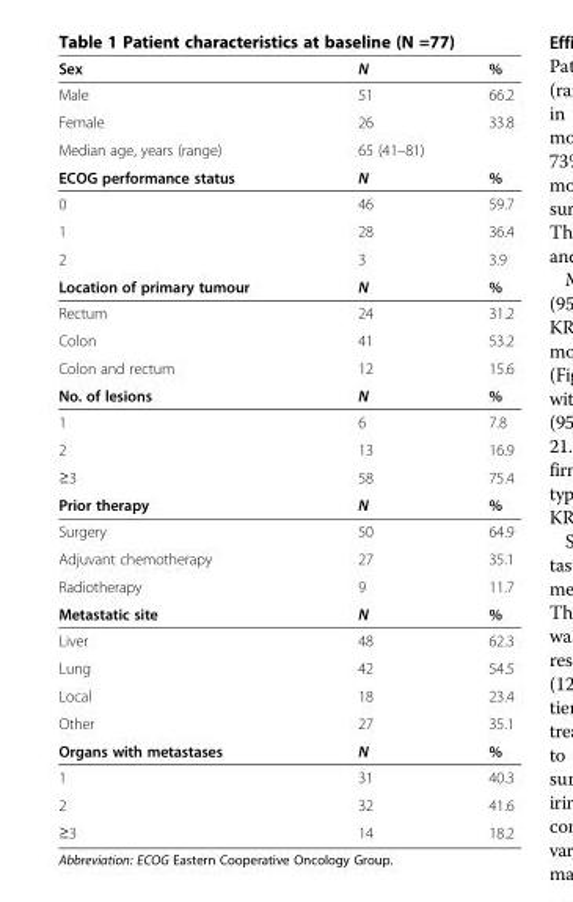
<table><tbody><tr><td>Sex</td><td>N</td><td>%</td></tr><tr><td>Male</td><td>51</td><td>66.2</td></tr><tr><td>Female</td><td>26</td><td>33.8</td></tr><tr><td>Median age, years (range)</td><td colspan="2">65 (41–81)</td></tr><tr><td>ECOG performance status</td><td>N</td><td>%</td></tr><tr><td>0</td><td>46</td><td>59.7</td></tr><tr><td>1</td><td>28</td><td>36.4</td></tr><tr><td>2</td><td>3</td><td>3.9</td></tr><tr><td>Location of primary tumour</td><td>N</td><td>%</td></tr><tr><td>Rectum</td><td>24</td><td>31.2</td></tr><tr><td>Colon</td><td>41</td><td>53.2</td></tr><tr><td>Colon and rectum</td><td>12</td><td>15.6</td></tr><tr><td>No. of lesions</td><td>N</td><td>%</td></tr><tr><td>1</td><td>6</td><td>7.8</td></tr><tr><td>2</td><td>13</td><td>16.9</td></tr><tr><td>≥3</td><td>58</td><td>75.4</td></tr><tr><td>Prior therapy</td><td>N</td><td>%</td></tr><tr><td>Surgery</td><td>50</td><td>64.9</td></tr><tr><td>Adjuvant chemotherapy</td><td>27</td><td>35.1</td></tr><tr><td>Radiotherapy</td><td>9</td><td>11.7</td></tr><tr><td>Metastatic site</td><td>N</td><td>%</td></tr><tr><td>Liver</td><td>48</td><td>62.3</td></tr><tr><td>Lung</td><td>42</td><td>54.5</td></tr><tr><td>Local</td><td>18</td><td>23.4</td></tr><tr><td>Other</td><td>27</td><td>35.1</td></tr><tr><td>Organs with metastases</td><td>N</td><td>%</td></tr><tr><td>1</td><td>31</td><td>40.3</td></tr><tr><td>2</td><td>32</td><td>41.6</td></tr><tr><td>≥3</td><td>14</td><td>18.2</td></tr></tbody></table>